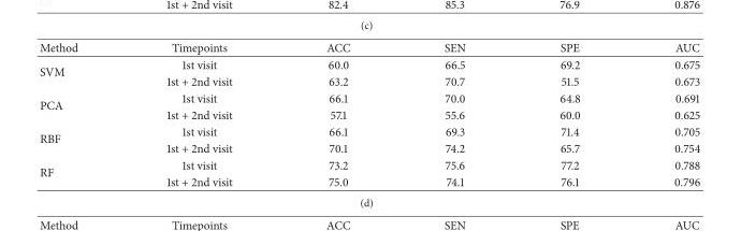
<table><thead><tr><td>Method</td><td>Timepoints</td><td>ACC</td><td>SEN</td><td>SPE</td><td>AUC</td></tr></thead><tbody><tr><td rowspan="2">SVM</td><td>1st visit</td><td>60.0</td><td>66.5</td><td>69.2</td><td>0.675</td></tr><tr><td>1st + 2nd visit</td><td>63.2</td><td>70.7</td><td>51.5</td><td>0.673</td></tr><tr><td rowspan="2">PCA</td><td>1st visit</td><td>66.1</td><td>70.0</td><td>64.8</td><td>0.691</td></tr><tr><td>1st + 2nd visit</td><td>57.1</td><td>55.6</td><td>60.0</td><td>0.625</td></tr><tr><td rowspan="2">RBF</td><td>1st visit</td><td>66.1</td><td>69.3</td><td>71.4</td><td>0.705</td></tr><tr><td>1st + 2nd visit</td><td>70.1</td><td>74.2</td><td>65.7</td><td>0.754</td></tr><tr><td rowspan="2">RF</td><td>1st visit</td><td>73.2</td><td>75.6</td><td>77.2</td><td>0.788</td></tr><tr><td>1st + 2nd visit</td><td>75.0</td><td>74.1</td><td>76.1</td><td>0.796</td></tr></tbody></table>